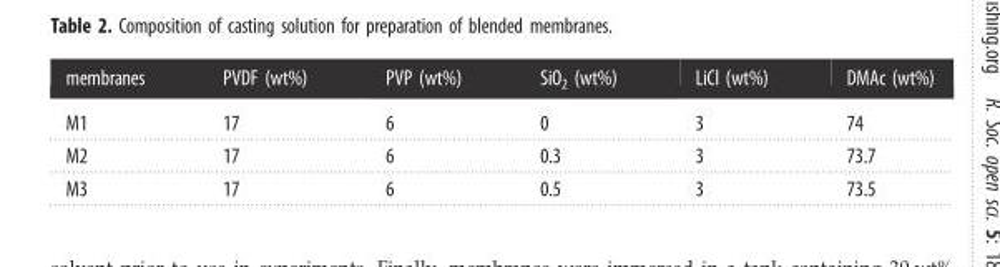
<table><thead><tr><td>membranes</td><td>PVDF (wt%)</td><td>PVP (wt%)</td><td>SiO<sub>2</sub> (wt%)</td><td>LiCl (wt%)</td><td>DMAc (wt%)</td></tr></thead><tbody><tr><td>M1</td><td>17</td><td>6</td><td>0</td><td>3</td><td>74</td></tr><tr><td>M2</td><td>17</td><td>6</td><td>0.3</td><td>3</td><td>73.7</td></tr><tr><td>M3</td><td>17</td><td>6</td><td>0.5</td><td>3</td><td>73.5</td></tr></tbody></table>